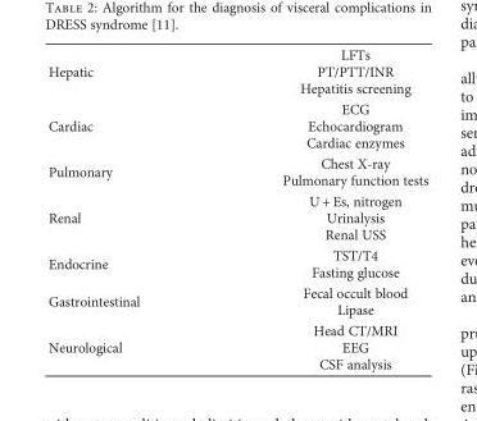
<table><tbody><tr><td>Hepatic</td><td>LFTs PT/PTT/INR Hepatitis screening</td></tr><tr><td>Cardiac</td><td>ECG Echocardiogram Cardiac enzymes</td></tr><tr><td>Pulmonary</td><td>Chest X-ray Pulmonary function tests</td></tr><tr><td>Renal</td><td>U + Es, nitrogen Urinalysis Renal USS</td></tr><tr><td>Endocrine</td><td>TST/T4 Fasting glucose</td></tr><tr><td>Gastrointestinal</td><td>Fecal occult blood Lipase</td></tr><tr><td>Neurological</td><td>Head CT/MRI EEG CSF analysis</td></tr></tbody></table>